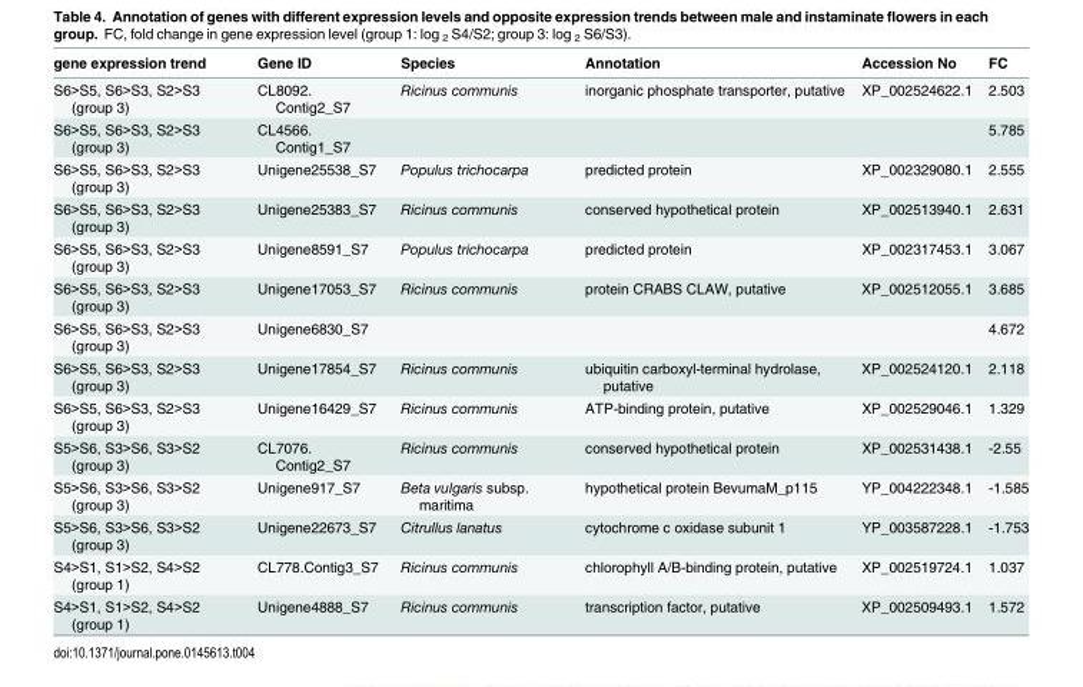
<table><thead><tr><td>gene expression trend</td><td>Gene ID</td><td>Species</td><td>Annotation</td><td>Accession No</td><td>FC</td></tr></thead><tbody><tr><td>S6&gt;S5, S6&gt;S3, S2&gt;S3 (group 3)</td><td>CL8092. Contig2_S7</td><td>Ricinus communis</td><td>inorganic phosphate transporter, putative</td><td>XP_002524622.1</td><td>2.503</td></tr><tr><td>S6&gt;S5, S6&gt;S3, S2&gt;S3 (group 3)</td><td>CL4566. Contig1_S7</td><td></td><td></td><td></td><td>5.785</td></tr><tr><td>S6&gt;S5, S6&gt;S3, S2&gt;S3 (group 3)</td><td>Unigene25538_S7</td><td>Populus trichocarpa</td><td>predicted protein</td><td>XP_002329080.1</td><td>2.555</td></tr><tr><td>S6&gt;S5, S6&gt;S3, S2&gt;S3 (group 3)</td><td>Unigene25383_S7</td><td>Ricinus communis</td><td>conserved hypothetical protein</td><td>XP_002513940.1</td><td>2.631</td></tr><tr><td>S6&gt;S5, S6&gt;S3, S2&gt;S3 (group 3)</td><td>Unigene8591_S7</td><td>Populus trichocarpa</td><td>predicted protein</td><td>XP_002317453.1</td><td>3.067</td></tr><tr><td>S6&gt;S5, S6&gt;S3, S2&gt;S3 (group 3)</td><td>Unigene17053_S7</td><td>Ricinus communis</td><td>protein CRABS CLAW, putative</td><td>XP_002512055.1</td><td>3.685</td></tr><tr><td>S6&gt;S5, S6&gt;S3, S2&gt;S3 (group 3)</td><td>Unigene6830_S7</td><td></td><td></td><td></td><td>4.672</td></tr><tr><td>S6&gt;S5, S6&gt;S3, S2&gt;S3 (group 3)</td><td>Unigene17854_S7</td><td>Ricinus communis</td><td>ubiquitin carboxyl-terminal hydrolase, putative</td><td>XP_002524120.1</td><td>2.118</td></tr><tr><td>S6&gt;S5, S6&gt;S3, S2&gt;S3 (group 3)</td><td>Unigene16429_S7</td><td>Ricinus communis</td><td>ATP-binding protein, putative</td><td>XP_002529046.1</td><td>1.329</td></tr><tr><td>S5&gt;S6, S3&gt;S6, S3&gt;S2 (group 3)</td><td>CL7076. Contig2_S7</td><td>Ricinus communis</td><td>conserved hypothetical protein</td><td>XP_002531438.1</td><td>-2.55</td></tr><tr><td>S5&gt;S6, S3&gt;S6, S3&gt;S2 (group 3)</td><td>Unigene917_S7</td><td>Beta vulgaris subsp. maritima</td><td>hypothetical protein BevumaM_p115</td><td>YP_004222348.1</td><td>-1.585</td></tr><tr><td>S5&gt;S6, S3&gt;S6, S3&gt;S2 (group 3)</td><td>Unigene22673_S7</td><td>Citrullus lanatus</td><td>cytochrome c oxidase subunit 1</td><td>YP_003587228.1</td><td>-1.753</td></tr><tr><td>S4&gt;S1, S1&gt;S2, S4&gt;S2 (group 1)</td><td>CL778.Contig3_S7</td><td>Ricinus communis</td><td>chlorophyll A/B-binding protein, putative</td><td>XP_002519724.1</td><td>1.037</td></tr><tr><td>S4&gt;S1, S1&gt;S2, S4&gt;S2 (group 1)</td><td>Unigene4888_S7</td><td>Ricinus communis</td><td>transcription factor, putative</td><td>XP_002509493.1</td><td>1.572</td></tr></tbody></table>